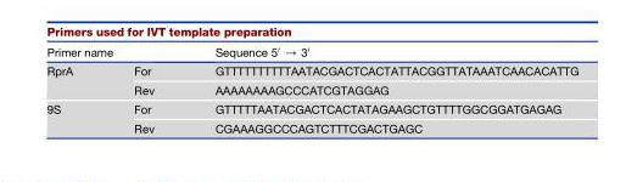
<table><tbody><tr><td colspan="2">Primer name</td><td>Sequence 5′ → 3′</td></tr><tr><td rowspan="2">RprA</td><td>For</td><td>GTTTTTTTTTTAATACGACTCACTATTACGGTTATAAATCAACACATTG</td></tr><tr><td>Rev</td><td>AAAAAAAAGCCCATCGTAGGAG</td></tr><tr><td rowspan="2">9S</td><td>For</td><td>GTTTTTAATACGACTCACTATAGAAGCTGTTTTGGCGGATGAGAG</td></tr><tr><td>Rev</td><td>CGAAAGGCCCAGTCTTTCGACTGAGC</td></tr></tbody></table>